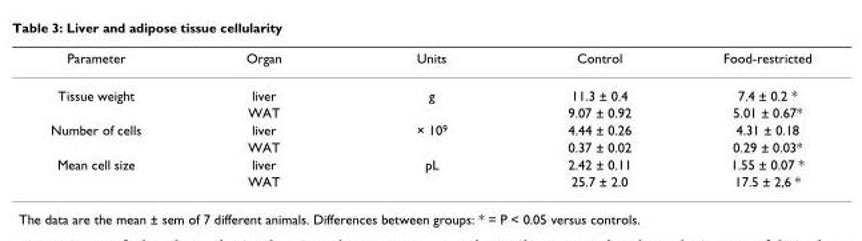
<table><thead><tr><td>Parameter</td><td>Organ</td><td>Units</td><td>Control</td><td>Food-restricted</td></tr></thead><tbody><tr><td rowspan="2">Tissue weight</td><td>liver</td><td>g</td><td>11.3 ± 0.4</td><td>7.4 ± 0.2 *</td></tr><tr><td>WAT</td><td></td><td>9.07 ± 0.92</td><td>5.01 ± 0.67*</td></tr><tr><td rowspan="2">Number of cells</td><td>liver</td><td>× 10<sup>9</sup></td><td>4.44 ± 0.26</td><td>4.31 ± 0.18</td></tr><tr><td>WAT</td><td></td><td>0.37 ± 0.02</td><td>0.29 ± 0.03*</td></tr><tr><td rowspan="2">Mean cell size</td><td>liver</td><td>pL</td><td>2.42 ± 0.11</td><td>1.55 ± 0.07 *</td></tr><tr><td>WAT</td><td></td><td>25.7 ± 2.0</td><td>17.5 ± 2,6 *</td></tr></tbody></table>